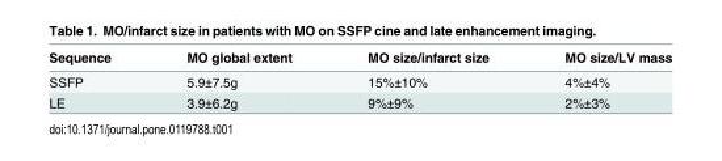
<table><thead><tr><td>Sequence</td><td>MO global extent</td><td>MO size/infarct size</td><td>MO size/LV mass</td></tr></thead><tbody><tr><td>SSFP</td><td>5.9±7.5g</td><td>15%±10%</td><td>4%±4%</td></tr><tr><td>LE</td><td>3.9±6.2g</td><td>9%±9%</td><td>2%±3%</td></tr></tbody></table>